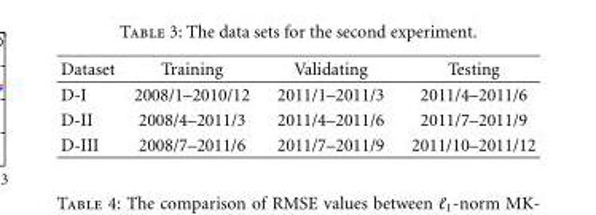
<table><thead><tr><td>Dataset</td><td>Training</td><td>Validating</td><td>Testing</td></tr></thead><tbody><tr><td>D-I</td><td>2008/1–2010/12</td><td>2011/1–2011/3</td><td>2011/4–2011/6</td></tr><tr><td>D-II</td><td>2008/4–2011/3</td><td>2011/4–2011/6</td><td>2011/7–2011/9</td></tr><tr><td>D-III</td><td>2008/7–2011/6</td><td>2011/7–2011/9</td><td>2011/10–2011/12</td></tr></tbody></table>